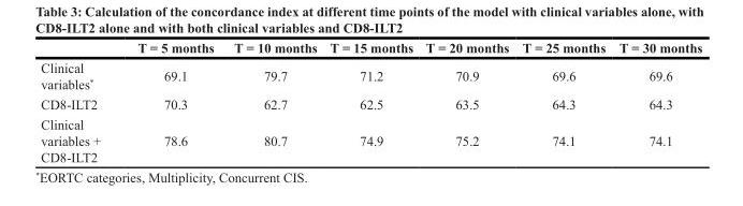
<table><thead><tr><td></td><td>T = 5 months</td><td>T = 10 months</td><td>T = 15 months</td><td>T = 20 months</td><td>T = 25 months</td><td>T = 30 months</td></tr></thead><tbody><tr><td>Clinical variables*</td><td>69.1</td><td>79.7</td><td>71.2</td><td>70.9</td><td>69.6</td><td>69.6</td></tr><tr><td>CD8-ILT2</td><td>70.3</td><td>62.7</td><td>62.5</td><td>63.5</td><td>64.3</td><td>64.3</td></tr><tr><td>Clinical variables + CD8-ILT2</td><td>78.6</td><td>80.7</td><td>74.9</td><td>75.2</td><td>74.1</td><td>74.1</td></tr></tbody></table>